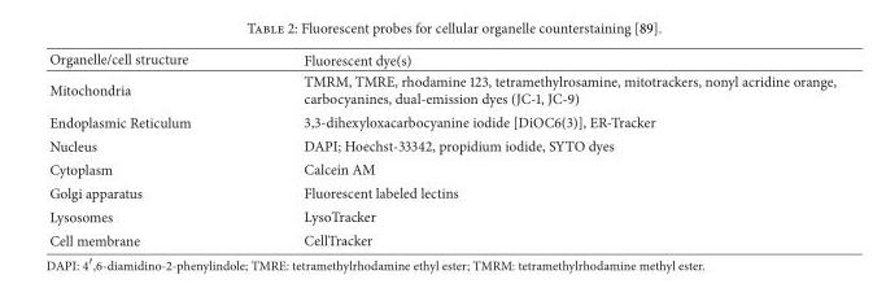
<table><thead><tr><td>Organelle/cell structure</td><td>Fluorescent dye(s)</td></tr></thead><tbody><tr><td>Mitochondria</td><td>TMRM, TMRE, rhodamine 123, tetramethylrosamine, mitotrackers, nonyl acridine orange, carbocyanines, dual-emission dyes (JC-1, JC-9)</td></tr><tr><td>Endoplasmic Reticulum</td><td>3,3-dihexyloxacarbocyanine iodide [DiOC6(3)], ER-Tracker</td></tr><tr><td>Nucleus</td><td>DAPI; Hoechst-33342, propidium iodide, SYTO dyes</td></tr><tr><td>Cytoplasm</td><td>Calcein AM</td></tr><tr><td>Golgi apparatus</td><td>Fluorescent labeled lectins</td></tr><tr><td>Lysosomes</td><td>LysoTracker</td></tr><tr><td>Cell membrane</td><td>CellTracker</td></tr></tbody></table>